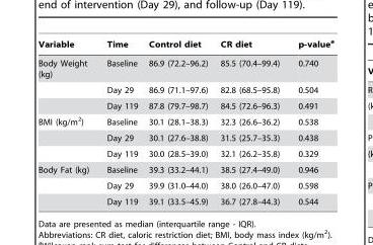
<table><thead><tr><td>Variable</td><td>Time</td><td>Control diet</td><td>CR diet</td><td>p-value<sup>a</sup></td></tr></thead><tbody><tr><td rowspan="3">Body Weight (kg)</td><td>Baseline</td><td>86.9 (72.2–96.2)</td><td>85.5 (70.4–99.4)</td><td>0.740</td></tr><tr><td>Day 29</td><td>86.9 (71.1–97.6)</td><td>82.8 (68.5–95.8)</td><td>0.504</td></tr><tr><td>Day 119</td><td>87.8 (79.7–98.7)</td><td>84.5 (72.6–96.3)</td><td>0.491</td></tr><tr><td rowspan="3">BMI (kg/m<sup>2</sup>)</td><td>Baseline</td><td>30.1 (28.1–38.3)</td><td>32.3 (26.6–36.2)</td><td>0.538</td></tr><tr><td>Day 29</td><td>30.1 (27.6–38.8)</td><td>31.5 (25.7–35.3)</td><td>0.438</td></tr><tr><td>Day 119</td><td>30.0 (28.5–39.0)</td><td>32.1 (26.2–35.8)</td><td>0.329</td></tr><tr><td rowspan="3">Body Fat (kg)</td><td>Baseline</td><td>39.3 (33.2–44.1)</td><td>38.5 (27.4–49.0)</td><td>0.946</td></tr><tr><td>Day 29</td><td>39.9 (31.0–44.0)</td><td>38.0 (26.0–47.0)</td><td>0.598</td></tr><tr><td>Day 119</td><td>39.1 (33.5–45.9)</td><td>36.7 (27.8–44.3)</td><td>0.544</td></tr></tbody></table>